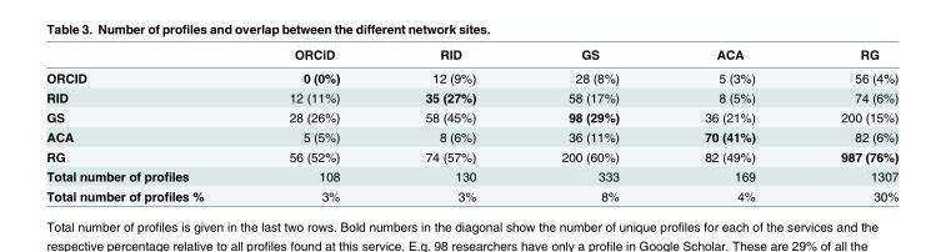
<table><thead><tr><td></td><td>ORCiD</td><td>RID</td><td>GS</td><td>ACA</td><td>RG</td></tr></thead><tbody><tr><td>ORCID</td><td>0 (0%)</td><td>12 (9%)</td><td>28 (8%)</td><td>5 (3%)</td><td>56 (4%)</td></tr><tr><td>RID</td><td>12 (11%)</td><td>35 (27%)</td><td>58 (17%)</td><td>8 (5%)</td><td>74 (6%)</td></tr><tr><td>GS</td><td>28 (26%)</td><td>58 (45%)</td><td>98 (29%)</td><td>36 (21%)</td><td>200 (15%)</td></tr><tr><td>ACA</td><td>5 (5%)</td><td>8 (6%)</td><td>36 (11%)</td><td>70 (41%)</td><td>82 (6%)</td></tr><tr><td>RG</td><td>56 (52%)</td><td>74 (57%)</td><td>200 (60%)</td><td>82 (49%)</td><td>987 (76%)</td></tr><tr><td>Total number of profiles</td><td>108</td><td>130</td><td>333</td><td>169</td><td>1307</td></tr><tr><td>Total number of profiles %</td><td>3%</td><td>3%</td><td>8%</td><td>4%</td><td>30%</td></tr></tbody></table>